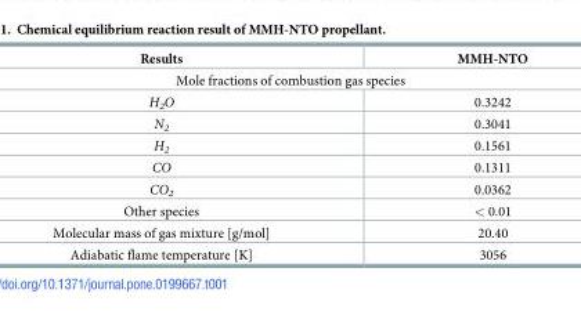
<table><thead><tr><td>Results</td><td>MMH-NTO</td></tr></thead><tbody><tr><td colspan="2">Mole fractions of combustion gas species</td></tr><tr><td>H<sub>2</sub>O</td><td>0.3242</td></tr><tr><td>N<sub>2</sub></td><td>0.3041</td></tr><tr><td>H<sub>2</sub></td><td>0.1561</td></tr><tr><td>CO</td><td>0.1311</td></tr><tr><td>CO<sub>2</sub></td><td>0.0362</td></tr><tr><td>Other species</td><td>&lt; 0.01</td></tr><tr><td>Molecular mass of gas mixture [g/mol]</td><td>20.40</td></tr><tr><td>Adiabatic flame temperature [K]</td><td>3056</td></tr></tbody></table>